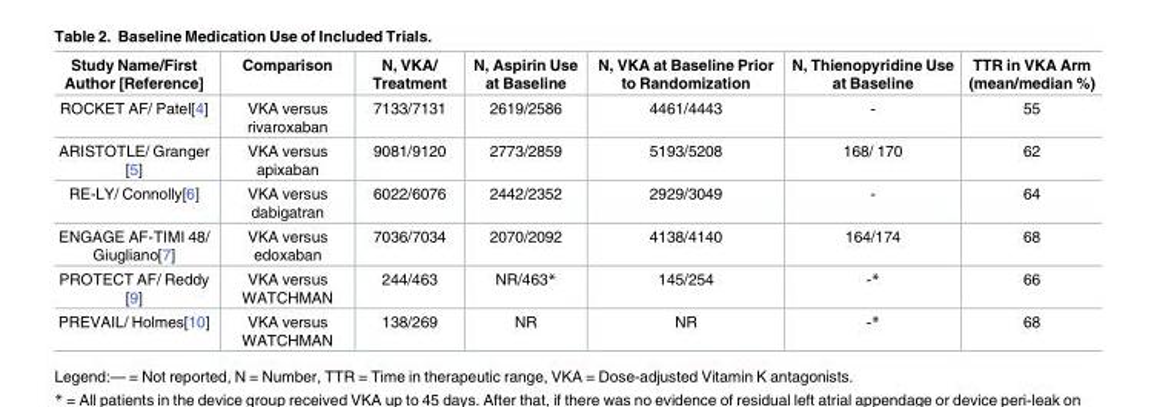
<table><thead><tr><td>Study Name/First Author [Reference]</td><td>Comparison</td><td>N, VKA/ Treatment</td><td>N, Aspirin Use at Baseline</td><td>N, VKA at Baseline Prior to Randomization</td><td>N, Thienopyridine Use at Baseline</td><td>TTR in VKA Arm (mean/median %)</td></tr></thead><tbody><tr><td>ROCKET AF/ Patel[4]</td><td>VKA versus rivaroxaban</td><td>7133/7131</td><td>2619/2586</td><td>4461/4443</td><td>-</td><td>55</td></tr><tr><td>ARISTOTLE/ Granger [5]</td><td>VKA versus apixaban</td><td>9081/9120</td><td>2773/2859</td><td>5193/5208</td><td>168/ 170</td><td>62</td></tr><tr><td>RE-LY/ Connolly[6]</td><td>VKA versus dabigatran</td><td>6022/6076</td><td>2442/2352</td><td>2929/3049</td><td>-</td><td>64</td></tr><tr><td>ENGAGE AF-TIMI 48/ Giugliano[7]</td><td>VKA versus edoxaban</td><td>7036/7034</td><td>2070/2092</td><td>4138/4140</td><td>164/174</td><td>68</td></tr><tr><td>PROTECT AF/ Reddy [9]</td><td>VKA versus WATCHMAN</td><td>244/463</td><td>NR/463*</td><td>145/254</td><td>-*</td><td>66</td></tr><tr><td>PREVAIL/ Holmes[10]</td><td>VKA versus WATCHMAN</td><td>138/269</td><td>NR</td><td>NR</td><td>-*</td><td>68</td></tr></tbody></table>